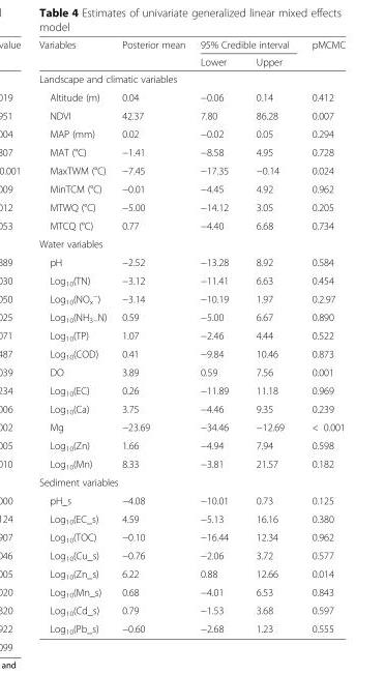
<table><thead><tr><td rowspan="2">Variables</td><td rowspan="2">Posterior mean</td><td colspan="2">95% Credible interval</td><td rowspan="2">pMCMC</td></tr><tr><td>Lower</td><td>Upper</td></tr></thead><tbody><tr><td colspan="5">Landscape and climatic variables</td></tr><tr><td>Altitude (m)</td><td>0.04</td><td>−0.06</td><td>0.14</td><td>0.412</td></tr><tr><td>NDVI</td><td>42.37</td><td>7.80</td><td>86.28</td><td>0.007</td></tr><tr><td>MAP (mm)</td><td>0.02</td><td>−0.02</td><td>0.05</td><td>0.294</td></tr><tr><td>MAT (°C)</td><td>−1.41</td><td>−8.58</td><td>4.95</td><td>0.728</td></tr><tr><td>MaxTWM (°C)</td><td>−7.45</td><td>−17.35</td><td>−0.14</td><td>0.024</td></tr><tr><td>MinTCM (°C)</td><td>−0.01</td><td>−4.45</td><td>4.92</td><td>0.962</td></tr><tr><td>MTWQ (°C)</td><td>−5.00</td><td>−14.12</td><td>3.05</td><td>0.205</td></tr><tr><td>MTCQ (°C)</td><td>0.77</td><td>−4.40</td><td>6.68</td><td>0.734</td></tr><tr><td colspan="5">Water variables</td></tr><tr><td>pH</td><td>−2.52</td><td>−13.28</td><td>8.92</td><td>0.584</td></tr><tr><td>Log<sub>10</sub>(TN)</td><td>−3.12</td><td>−11.41</td><td>6.63</td><td>0.454</td></tr><tr><td>Log<sub>10</sub>(NO<sub>x</sub> <sup>−</sup>)</td><td>−3.14</td><td>−10.19</td><td>1.97</td><td>0.2.97</td></tr><tr><td>Log<sub>10</sub>(NH<sub>3−</sub>N)</td><td>0.59</td><td>−5.00</td><td>6.67</td><td>0.890</td></tr><tr><td>Log<sub>10</sub>(TP)</td><td>1.07</td><td>−2.46</td><td>4.44</td><td>0.522</td></tr><tr><td>Log<sub>10</sub>(COD)</td><td>0.41</td><td>−9.84</td><td>10.46</td><td>0.873</td></tr><tr><td>DO</td><td>3.89</td><td>0.59</td><td>7.56</td><td>0.001</td></tr><tr><td>Log<sub>10</sub>(EC)</td><td>0.26</td><td>−11.89</td><td>11.18</td><td>0.969</td></tr><tr><td>Log<sub>10</sub>(Ca)</td><td>3.75</td><td>−4.46</td><td>9.35</td><td>0.239</td></tr><tr><td>Mg</td><td>−23.69</td><td>−34.46</td><td>−12.69</td><td>&lt; 0.001</td></tr><tr><td>Log<sub>10</sub>(Zn)</td><td>1.66</td><td>−4.94</td><td>7.94</td><td>0.598</td></tr><tr><td>Log<sub>10</sub>(Mn)</td><td>8.33</td><td>−3.81</td><td>21.57</td><td>0.182</td></tr><tr><td colspan="5">Sediment variables</td></tr><tr><td>pH_s</td><td>−4.08</td><td>−10.01</td><td>0.73</td><td>0.125</td></tr><tr><td>Log<sub>10</sub>(EC_s)</td><td>4.59</td><td>−5.13</td><td>16.16</td><td>0.380</td></tr><tr><td>Log<sub>10</sub>(TOC)</td><td>−0.10</td><td>−16.44</td><td>12.34</td><td>0.962</td></tr><tr><td>Log<sub>10</sub>(Cu_s)</td><td>−0.76</td><td>−2.06</td><td>3.72</td><td>0.577</td></tr><tr><td>Log<sub>10</sub>(Zn_s)</td><td>6.22</td><td>0.88</td><td>12.66</td><td>0.014</td></tr><tr><td>Log<sub>10</sub>(Mn_s)</td><td>0.68</td><td>−4.01</td><td>6.53</td><td>0.843</td></tr><tr><td>Log<sub>10</sub>(Cd_s)</td><td>0.79</td><td>−1.53</td><td>3.68</td><td>0.597</td></tr><tr><td>Log<sub>10</sub>(Pb_s)</td><td>−0.60</td><td>−2.68</td><td>1.23</td><td>0.555</td></tr></tbody></table>